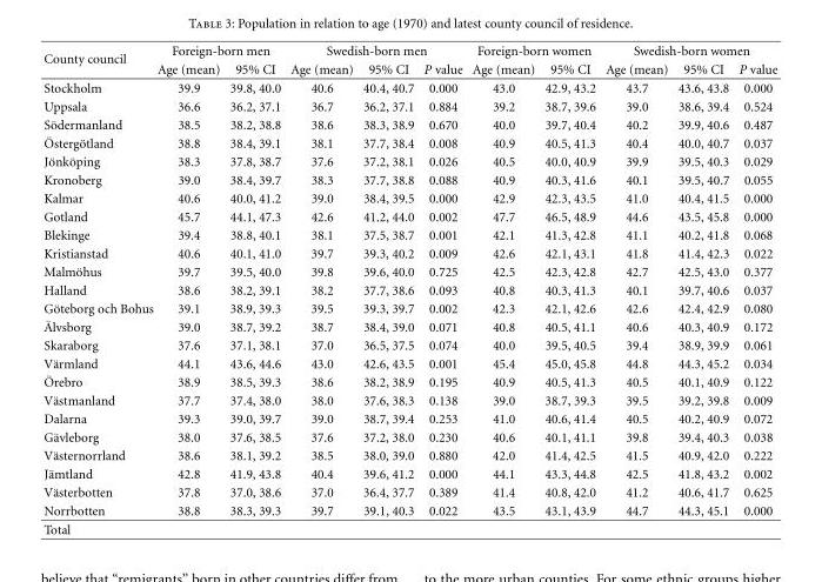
<table><thead><tr><td rowspan="2">County council</td><td colspan="2">Foreign-born men</td><td colspan="3">Swedish-born men</td><td colspan="2">Foreign-born women</td><td colspan="3">Swedish-born women</td></tr><tr><td>Age (mean)</td><td>95% CI</td><td>Age (mean)</td><td>95% CI</td><td>P value</td><td>Age (mean)</td><td>95% CI</td><td>Age (mean)</td><td>95% CI</td><td>P value</td></tr></thead><tbody><tr><td>Stockholm</td><td>39.9</td><td>39.8, 40.0</td><td>40.6</td><td>40.4, 40.7</td><td>0.000</td><td>43.0</td><td>42.9, 43.2</td><td>43.7</td><td>43.6, 43.8</td><td>0.000</td></tr><tr><td>Uppsala</td><td>36.6</td><td>36.2, 37.1</td><td>36.7</td><td>36.2, 37.1</td><td>0.884</td><td>39.2</td><td>38.7, 39.6</td><td>39.0</td><td>38.6, 39.4</td><td>0.524</td></tr><tr><td>S¨odermanland</td><td>38.5</td><td>38.2, 38.8</td><td>38.6</td><td>38.3, 38.9</td><td>0.670</td><td>40.0</td><td>39.7, 40.4</td><td>40.2</td><td>39.9, 40.6</td><td>0.487</td></tr><tr><td>¨Osterg¨otland</td><td>38.8</td><td>38.4, 39.1</td><td>38.1</td><td>37.7, 38.4</td><td>0.008</td><td>40.9</td><td>40.5, 41.3</td><td>40.4</td><td>40.0, 40.7</td><td>0.037</td></tr><tr><td>J¨onk¨oping</td><td>38.3</td><td>37.8, 38.7</td><td>37.6</td><td>37.2, 38.1</td><td>0.026</td><td>40.5</td><td>40.0, 40.9</td><td>39.9</td><td>39.5, 40.3</td><td>0.029</td></tr><tr><td>Kronoberg</td><td>39.0</td><td>38.4, 39.7</td><td>38.3</td><td>37.7, 38.8</td><td>0.088</td><td>40.9</td><td>40.3, 41.6</td><td>40.1</td><td>39.5, 40.7</td><td>0.055</td></tr><tr><td>Kalmar</td><td>40.6</td><td>40.0, 41.2</td><td>39.0</td><td>38.4, 39.5</td><td>0.000</td><td>42.9</td><td>42.3, 43.5</td><td>41.0</td><td>40.4, 41.5</td><td>0.000</td></tr><tr><td>Gotland</td><td>45.7</td><td>44.1, 47.3</td><td>42.6</td><td>41.2, 44.0</td><td>0.002</td><td>47.7</td><td>46.5, 48.9</td><td>44.6</td><td>43.5, 45.8</td><td>0.000</td></tr><tr><td>Blekinge</td><td>39.4</td><td>38.8, 40.1</td><td>38.1</td><td>37.5, 38.7</td><td>0.001</td><td>42.1</td><td>41.3, 42.8</td><td>41.1</td><td>40.2, 41.8</td><td>0.068</td></tr><tr><td>Kristianstad</td><td>40.6</td><td>40.1, 41.0</td><td>39.7</td><td>39.3, 40.2</td><td>0.009</td><td>42.6</td><td>42.1, 43.1</td><td>41.8</td><td>41.4, 42.3</td><td>0.022</td></tr><tr><td>Malm¨ohus</td><td>39.7</td><td>39.5, 40.0</td><td>39.8</td><td>39.6, 40.0</td><td>0.725</td><td>42.5</td><td>42.3, 42.8</td><td>42.7</td><td>42.5, 43.0</td><td>0.377</td></tr><tr><td>Halland</td><td>38.6</td><td>38.2, 39.1</td><td>38.2</td><td>37.7, 38.6</td><td>0.093</td><td>40.8</td><td>40.3, 41.3</td><td>40.1</td><td>39.7, 40.6</td><td>0.037</td></tr><tr><td>G¨oteborg och Bohus</td><td>39.1</td><td>38.9, 39.3</td><td>39.5</td><td>39.3, 39.7</td><td>0.002</td><td>42.3</td><td>42.1, 42.6</td><td>42.6</td><td>42.4, 42.9</td><td>0.080</td></tr><tr><td>¨Alvsborg</td><td>39.0</td><td>38.7, 39.2</td><td>38.7</td><td>38.4, 39.0</td><td>0.071</td><td>40.8</td><td>40.5, 41.1</td><td>40.6</td><td>40.3, 40.9</td><td>0.172</td></tr><tr><td>Skaraborg</td><td>37.6</td><td>37.1, 38.1</td><td>37.0</td><td>36.5, 37.5</td><td>0.074</td><td>40.0</td><td>39.5, 40.5</td><td>39.4</td><td>38.9, 39.9</td><td>0.061</td></tr><tr><td>V¨armland</td><td>44.1</td><td>43.6, 44.6</td><td>43.0</td><td>42.6, 43.5</td><td>0.001</td><td>45.4</td><td>45.0, 45.8</td><td>44.8</td><td>44.3, 45.2</td><td>0.034</td></tr><tr><td>¨Orebro</td><td>38.9</td><td>38.5, 39.3</td><td>38.6</td><td>38.2, 38.9</td><td>0.195</td><td>40.9</td><td>40.5, 41.3</td><td>40.5</td><td>40.1, 40.9</td><td>0.122</td></tr><tr><td>V¨astmanland</td><td>37.7</td><td>37.4, 38.0</td><td>38.0</td><td>37.6, 38.3</td><td>0.138</td><td>39.0</td><td>38.7, 39.3</td><td>39.5</td><td>39.2, 39.8</td><td>0.009</td></tr><tr><td>Dalarna</td><td>39.3</td><td>39.0, 39.7</td><td>39.0</td><td>38.7, 39.4</td><td>0.253</td><td>41.0</td><td>40.6, 41.4</td><td>40.5</td><td>40.2, 40.9</td><td>0.072</td></tr><tr><td>G¨avleborg</td><td>38.0</td><td>37.6, 38.5</td><td>37.6</td><td>37.2, 38.0</td><td>0.230</td><td>40.6</td><td>40.1, 41.1</td><td>39.8</td><td>39.4, 40.3</td><td>0.038</td></tr><tr><td>V¨asternorrland</td><td>38.6</td><td>38.1, 39.2</td><td>38.5</td><td>38.0, 39.0</td><td>0.880</td><td>42.0</td><td>41.4, 42.5</td><td>41.5</td><td>40.9, 42.0</td><td>0.222</td></tr><tr><td>J¨amtland</td><td>42.8</td><td>41.9, 43.8</td><td>40.4</td><td>39.6, 41.2</td><td>0.000</td><td>44.1</td><td>43.3, 44.8</td><td>42.5</td><td>41.8, 43.2</td><td>0.002</td></tr><tr><td>V¨asterbotten</td><td>37.8</td><td>37.0, 38.6</td><td>37.0</td><td>36.4, 37.7</td><td>0.389</td><td>41.4</td><td>40.8, 42.0</td><td>41.2</td><td>40.6, 41.7</td><td>0.625</td></tr><tr><td>Norrbotten</td><td>38.8</td><td>38.3, 39.3</td><td>39.7</td><td>39.1, 40.3</td><td>0.022</td><td>43.5</td><td>43.1, 43.9</td><td>44.7</td><td>44.3, 45.1</td><td>0.000</td></tr><tr><td>Total</td><td></td><td></td><td></td><td></td><td></td><td></td><td></td><td></td><td></td><td></td></tr></tbody></table>